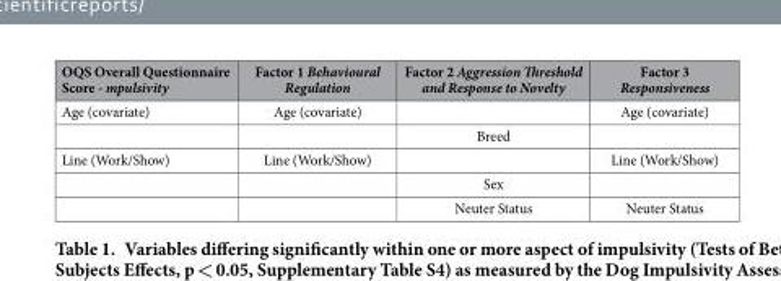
<table><thead><tr><td>OQS Overall Questionnaire Score - mpulsivity</td><td>Factor 1 Behavioural Regulation</td><td>Factor 2 Aggression Threshold and Response to Novelty</td><td>Factor 3 Responsiveness</td></tr></thead><tbody><tr><td rowspan="2">Age (covariate)</td><td>Age (covariate)</td><td></td><td>Age (covariate)</td></tr><tr><td></td><td>Breed</td><td></td></tr><tr><td rowspan="3">Line (Work/Show)</td><td>Line (Work/Show)</td><td></td><td>Line (Work/Show)</td></tr><tr><td></td><td>Sex</td><td></td></tr><tr><td></td><td>Neuter Status</td><td>Neuter Status</td></tr></tbody></table>